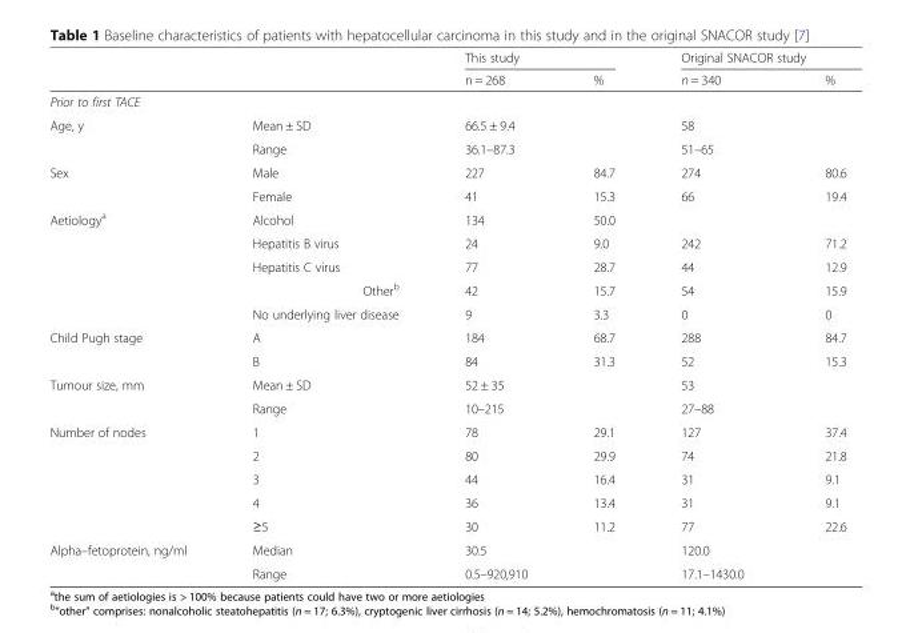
<table><thead><tr><td rowspan="2"></td><td rowspan="2"></td><td colspan="2">This study</td><td colspan="2">Original SNACOR study</td></tr><tr><td>n = 268</td><td>%</td><td>n = 340</td><td>%</td></tr></thead><tbody><tr><td colspan="6">Prior to first TACE</td></tr><tr><td rowspan="2">Age, y</td><td>Mean ± SD</td><td>66.5 ± 9.4</td><td></td><td>58</td><td></td></tr><tr><td>Range</td><td>36.1–87.3</td><td></td><td>51–65</td><td></td></tr><tr><td rowspan="2">Sex</td><td>Male</td><td>227</td><td>84.7</td><td>274</td><td>80.6</td></tr><tr><td>Female</td><td>41</td><td>15.3</td><td>66</td><td>19.4</td></tr><tr><td rowspan="5">Aetiology<sup>a</sup></td><td>Alcohol</td><td>134</td><td>50.0</td><td></td><td></td></tr><tr><td>Hepatitis B virus</td><td>24</td><td>9.0</td><td>242</td><td>71.2</td></tr><tr><td>Hepatitis C virus</td><td>77</td><td>28.7</td><td>44</td><td>12.9</td></tr><tr><td>Other<sup>b</sup></td><td>42</td><td>15.7</td><td>54</td><td>15.9</td></tr><tr><td>No underlying liver disease</td><td>9</td><td>3.3</td><td>0</td><td>0</td></tr><tr><td rowspan="2">Child Pugh stage</td><td>A</td><td>184</td><td>68.7</td><td>288</td><td>84.7</td></tr><tr><td>B</td><td>84</td><td>31.3</td><td>52</td><td>15.3</td></tr><tr><td rowspan="2">Tumour size, mm</td><td>Mean ± SD</td><td>52 ± 35</td><td></td><td>53</td><td></td></tr><tr><td>Range</td><td>10–215</td><td></td><td>27–88</td><td></td></tr><tr><td rowspan="5">Number of nodes</td><td>1</td><td>78</td><td>29.1</td><td>127</td><td>37.4</td></tr><tr><td>2</td><td>80</td><td>29.9</td><td>74</td><td>21.8</td></tr><tr><td>3</td><td>44</td><td>16.4</td><td>31</td><td>9.1</td></tr><tr><td>4</td><td>36</td><td>13.4</td><td>31</td><td>9.1</td></tr><tr><td>≥5</td><td>30</td><td>11.2</td><td>77</td><td>22.6</td></tr><tr><td rowspan="2">Alpha–fetoprotein, ng/ml</td><td>Median</td><td>30.5</td><td></td><td>120.0</td><td></td></tr><tr><td>Range</td><td>0.5–920,910</td><td></td><td>17.1–1430.0</td><td></td></tr></tbody></table>